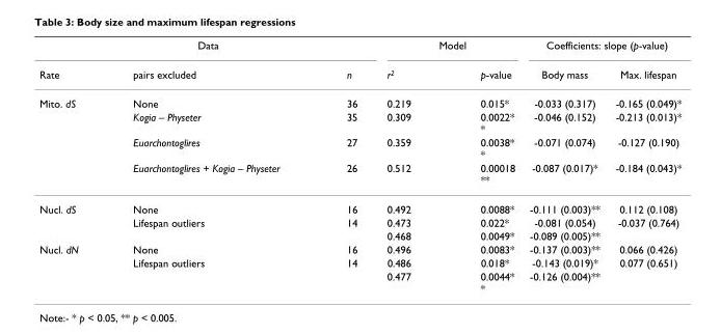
<table><thead><tr><td colspan="3">Data</td><td colspan="2">Model</td><td colspan="2">Coefficients: slope (p-value)</td></tr><tr><td>Rate</td><td>pairs excluded</td><td>n</td><td>r<sup>2</sup></td><td>p-value</td><td>Body mass</td><td>Max. lifespan</td></tr></thead><tbody><tr><td rowspan="4">Mito. dS</td><td>None</td><td>36</td><td>0.219</td><td>0.015*</td><td>-0.033 (0.317)</td><td>-0.165 (0.049)*</td></tr><tr><td>Kogia – Physeter</td><td>35</td><td>0.309</td><td>0.0022* *</td><td>-0.046 (0.152)</td><td>-0.213 (0.013)*</td></tr><tr><td>Euarchontoglires</td><td>27</td><td>0.359</td><td>0.0038* *</td><td>-0.071 (0.074)</td><td>-0.127 (0.190)</td></tr><tr><td>Euarchontoglires + Kogia – Physeter</td><td>26</td><td>0.512</td><td>0.00018 **</td><td>-0.087 (0.017)*</td><td>-0.184 (0.043)*</td></tr><tr><td rowspan="3">Nucl. dS</td><td>None</td><td>16</td><td>0.492</td><td>0.0088*</td><td>-0.111 (0.003)**</td><td>0.112 (0.108)</td></tr><tr><td>Lifespan outliers</td><td>14</td><td>0.473</td><td>0.022*</td><td>-0.081 (0.054)</td><td>-0.037 (0.764)</td></tr><tr><td></td><td></td><td>0.468</td><td>0.0049*</td><td>-0.089 (0.005)**</td><td></td></tr><tr><td rowspan="3">Nucl. dN</td><td>None</td><td>16</td><td>0.496</td><td>0.0083*</td><td>-0.137 (0.003)**</td><td>0.066 (0.426)</td></tr><tr><td>Lifespan outliers</td><td>14</td><td>0.486</td><td>0.018*</td><td>-0.143 (0.019)*</td><td>0.077 (0.651)</td></tr><tr><td></td><td></td><td>0.477</td><td>0.0044* *</td><td>-0.126 (0.004)**</td><td></td></tr></tbody></table>